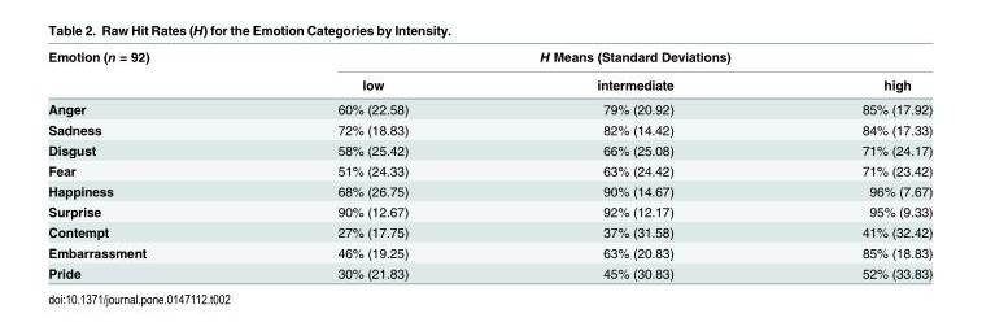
<table><thead><tr><td rowspan="2">Emotion (n = 92)</td><td colspan="3">H Means (Standard Deviations)</td></tr><tr><td>low</td><td>intermediate</td><td>high</td></tr></thead><tbody><tr><td>Anger</td><td>60% (22.58)</td><td>79% (20.92)</td><td>85% (17.92)</td></tr><tr><td>Sadness</td><td>72% (18.83)</td><td>82% (14.42)</td><td>84% (17.33)</td></tr><tr><td>Disgust</td><td>58% (25.42)</td><td>66% (25.08)</td><td>71% (24.17)</td></tr><tr><td>Fear</td><td>51% (24.33)</td><td>63% (24.42)</td><td>71% (23.42)</td></tr><tr><td>Happiness</td><td>68% (26.75)</td><td>90% (14.67)</td><td>96% (7.67)</td></tr><tr><td>Surprise</td><td>90% (12.67)</td><td>92% (12.17)</td><td>95% (9.33)</td></tr><tr><td>Contempt</td><td>27% (17.75)</td><td>37% (31.58)</td><td>41% (32.42)</td></tr><tr><td>Embarrassment</td><td>46% (19.25)</td><td>63% (20.83)</td><td>85% (18.83)</td></tr><tr><td>Pride</td><td>30% (21.83)</td><td>45% (30.83)</td><td>52% (33.83)</td></tr></tbody></table>